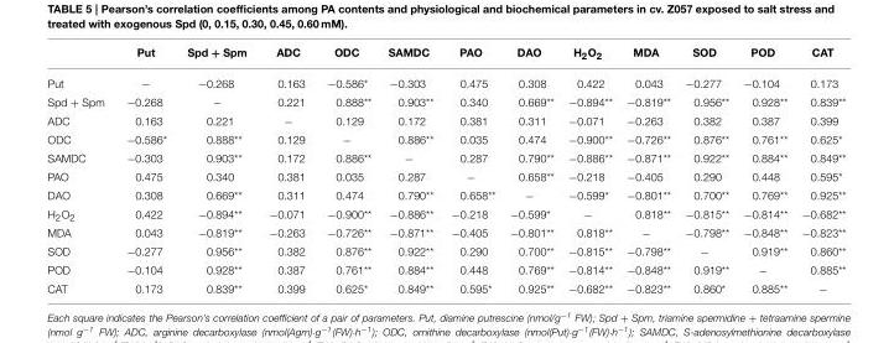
<table><thead><tr><td></td><td>Put</td><td>Spd + Spm</td><td>ADC</td><td>ODC</td><td>SAMDC</td><td>PAO</td><td>DAO</td><td>H<sub>2</sub>O<sub>2</sub></td><td>MDA</td><td>SOD</td><td>POD</td><td>CAT</td></tr></thead><tbody><tr><td>Put</td><td>−</td><td>−0.268</td><td>0.163</td><td>−0.586*</td><td>−0.303</td><td>0.475</td><td>0.308</td><td>0.422</td><td>0.043</td><td>−0.277</td><td>−0.104</td><td>0.173</td></tr><tr><td>Spd + Spm</td><td>−0.268</td><td>−</td><td>0.221</td><td>0.888**</td><td>0.903**</td><td>0.340</td><td>0.669**</td><td>−0.894**</td><td>−0.819**</td><td>0.956**</td><td>0.928**</td><td>0.839**</td></tr><tr><td>ADC</td><td>0.163</td><td>0.221</td><td>−</td><td>0.129</td><td>0.172</td><td>0.381</td><td>0.311</td><td>−0.071</td><td>−0.263</td><td>0.382</td><td>0.387</td><td>0.399</td></tr><tr><td>ODC</td><td>−0.586*</td><td>0.888**</td><td>0.129</td><td>−</td><td>0.886**</td><td>0.035</td><td>0.474</td><td>−0.900**</td><td>−0.726**</td><td>0.876**</td><td>0.761**</td><td>0.625*</td></tr><tr><td>SAMDC</td><td>−0.303</td><td>0.903**</td><td>0.172</td><td>0.886**</td><td>−</td><td>0.287</td><td>0.790**</td><td>−0.886**</td><td>−0.871**</td><td>0.922**</td><td>0.884**</td><td>0.849**</td></tr><tr><td>PAO</td><td>0.475</td><td>0.340</td><td>0.381</td><td>0.035</td><td>0.287</td><td>−</td><td>0.658**</td><td>−0.218</td><td>−0.405</td><td>0.290</td><td>0.448</td><td>0.595*</td></tr><tr><td>DAO</td><td>0.308</td><td>0.669**</td><td>0.311</td><td>0.474</td><td>0.790**</td><td>0.658**</td><td>−</td><td>−0.599*</td><td>−0.801**</td><td>0.700**</td><td>0.769**</td><td>0.925**</td></tr><tr><td>H<sub>2</sub>O<sub>2</sub></td><td>0.422</td><td>−0.894**</td><td>−0.071</td><td>−0.900**</td><td>−0.886**</td><td>−0.218</td><td>−0.599*</td><td>−</td><td>0.818**</td><td>−0.815**</td><td>−0.814**</td><td>−0.682**</td></tr><tr><td>MDA</td><td>0.043</td><td>−0.819**</td><td>−0.263</td><td>−0.726**</td><td>−0.871**</td><td>−0.405</td><td>−0.801**</td><td>0.818**</td><td>−</td><td>−0.798**</td><td>−0.848**</td><td>−0.823**</td></tr><tr><td>SOD</td><td>−0.277</td><td>0.956**</td><td>0.382</td><td>0.876**</td><td>0.922**</td><td>0.290</td><td>0.700**</td><td>−0.815**</td><td>−0.798**</td><td>−</td><td>0.919**</td><td>0.860**</td></tr><tr><td>POD</td><td>−0.104</td><td>0.928**</td><td>0.387</td><td>0.761**</td><td>0.884**</td><td>0.448</td><td>0.769**</td><td>−0.814**</td><td>−0.848**</td><td>0.919**</td><td>−</td><td>0.885**</td></tr><tr><td>CAT</td><td>0.173</td><td>0.839**</td><td>0.399</td><td>0.625*</td><td>0.849**</td><td>0.595*</td><td>0.925**</td><td>−0.682**</td><td>−0.823**</td><td>0.860*</td><td>0.885**</td><td>−</td></tr></tbody></table>